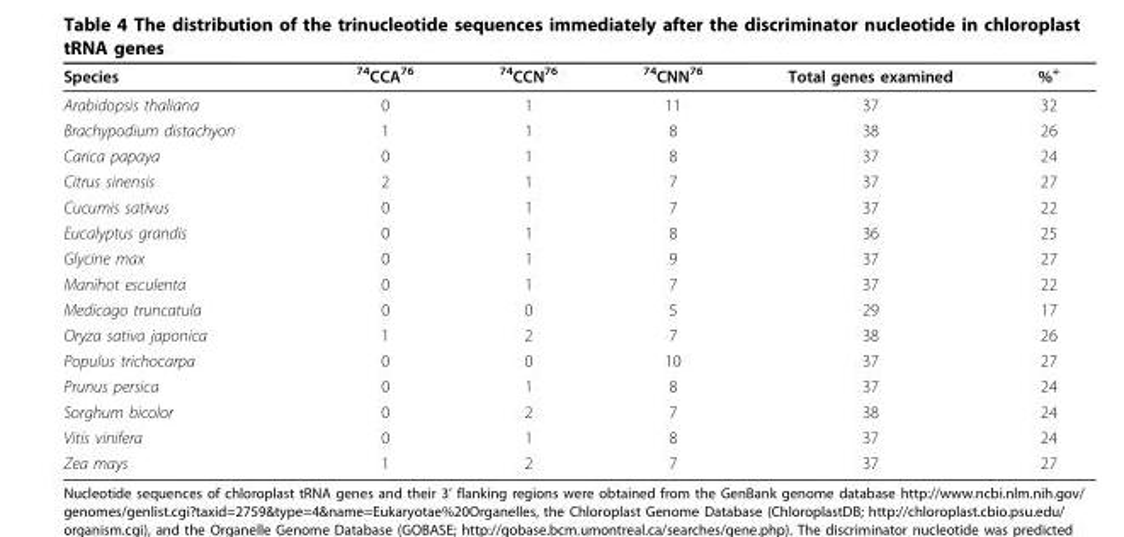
<table><thead><tr><td>Species</td><td><sup>74</sup>CCA<sup>76</sup></td><td><sup>74</sup>CCN<sup>76</sup></td><td><sup>74</sup>CNN<sup>76</sup></td><td>Total genes examined</td><td>%<sup>+</sup></td></tr></thead><tbody><tr><td>Arabidopsis thaliana</td><td>0</td><td>1</td><td>11</td><td>37</td><td>32</td></tr><tr><td>Brachypodium distachyon</td><td>1</td><td>1</td><td>8</td><td>38</td><td>26</td></tr><tr><td>Carica papaya</td><td>0</td><td>1</td><td>8</td><td>37</td><td>24</td></tr><tr><td>Citrus sinensis</td><td>2</td><td>1</td><td>7</td><td>37</td><td>27</td></tr><tr><td>Cucumis sativus</td><td>0</td><td>1</td><td>7</td><td>37</td><td>22</td></tr><tr><td>Eucalyptus grandis</td><td>0</td><td>1</td><td>8</td><td>36</td><td>25</td></tr><tr><td>Glycine max</td><td>0</td><td>1</td><td>9</td><td>37</td><td>27</td></tr><tr><td>Manihot esculenta</td><td>0</td><td>1</td><td>7</td><td>37</td><td>22</td></tr><tr><td>Medicago truncatula</td><td>0</td><td>0</td><td>5</td><td>29</td><td>17</td></tr><tr><td>Oryza sativa japonica</td><td>1</td><td>2</td><td>7</td><td>38</td><td>26</td></tr><tr><td>Populus trichocarpa</td><td>0</td><td>0</td><td>10</td><td>37</td><td>27</td></tr><tr><td>Prunus persica</td><td>0</td><td>1</td><td>8</td><td>37</td><td>24</td></tr><tr><td>Sorghum bicolor</td><td>0</td><td>2</td><td>7</td><td>38</td><td>24</td></tr><tr><td>Vitis vinifera</td><td>0</td><td>1</td><td>8</td><td>37</td><td>24</td></tr><tr><td>Zea mays</td><td>1</td><td>2</td><td>7</td><td>37</td><td>27</td></tr></tbody></table>